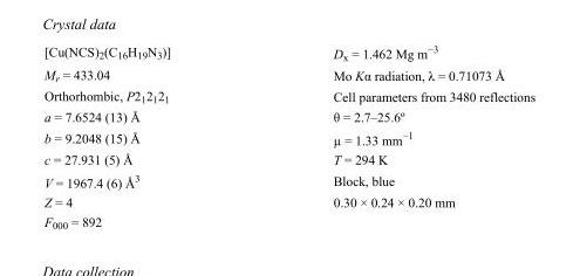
<table><tbody><tr><td>[Cu(NCS)<sub>2</sub>(C<sub>16</sub>H<sub>19</sub>N<sub>3</sub>)]</td><td>D<sub>x</sub> = 1.462 Mg m<sup>−3</sup></td></tr><tr><td>M<sub>r</sub> = 433.04</td><td>Mo Kα radiation, λ = 0.71073 Å</td></tr><tr><td>Orthorhombic, P2<sub>1</sub>2<sub>1</sub>2<sub>1</sub></td><td>Cell parameters from 3480 reflections</td></tr><tr><td>a = 7.6524 (13) Å</td><td>θ = 2.7–25.6º</td></tr><tr><td>b = 9.2048 (15) Å</td><td>µ = 1.33 mm<sup>−1</sup></td></tr><tr><td>c = 27.931 (5) Å</td><td>T = 294 K</td></tr><tr><td>V = 1967.4 (6) Å<sup>3</sup></td><td>Block, blue</td></tr><tr><td>Z = 4</td><td>0.30 × 0.24 × 0.20 mm</td></tr><tr><td>F000 = 892</td><td></td></tr></tbody></table>